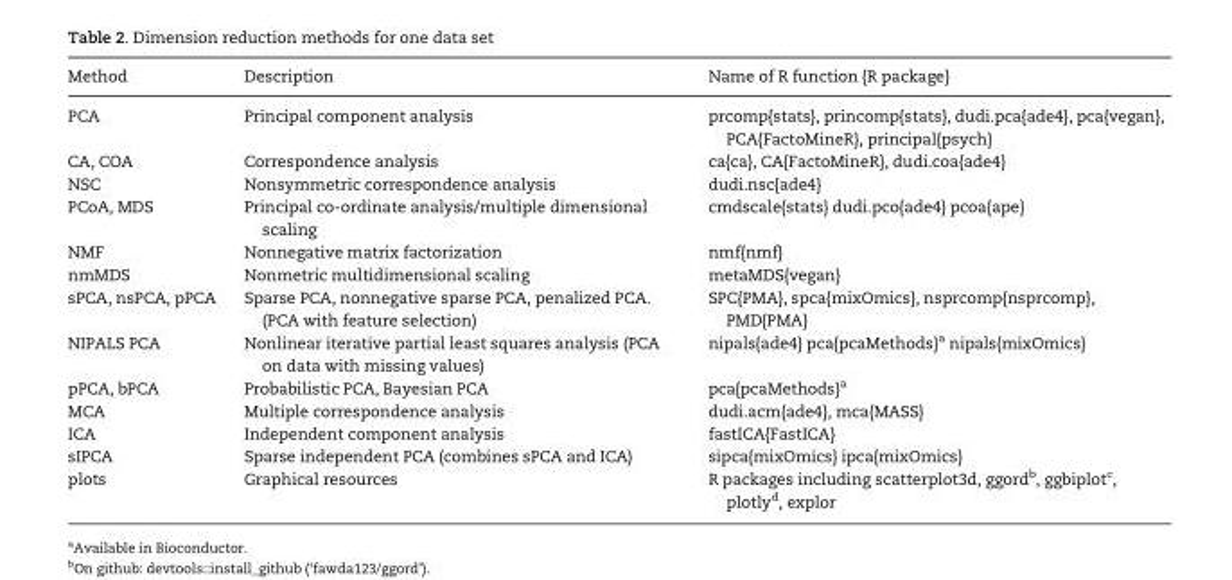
<table><thead><tr><td>Method</td><td>Description</td><td>Name of R function {R package}</td></tr></thead><tbody><tr><td>PCA</td><td>Principal component analysis</td><td>prcomp{stats}, princomp{stats}, dudi.pca{ade4}, pca{vegan}, PCA{FactoMineR}, principal{psych}</td></tr><tr><td>CA, COA</td><td>Correspondence analysis</td><td>ca{ca}, CA{FactoMineR}, dudi.coa{ade4}</td></tr><tr><td>NSC</td><td>Nonsymmetric correspondence analysis</td><td>dudi.nsc{ade4}</td></tr><tr><td>PCoA, MDS</td><td>Principal co-ordinate analysis/multiple dimensional scaling</td><td>cmdscale{stats} dudi.pco{ade4} pcoa{ape}</td></tr><tr><td>NMF</td><td>Nonnegative matrix factorization</td><td>nmf{nmf}</td></tr><tr><td>nmMDS</td><td>Nonmetric multidimensional scaling</td><td>metaMDS{vegan}</td></tr><tr><td>sPCA, nsPCA, pPCA</td><td>Sparse PCA, nonnegative sparse PCA, penalized PCA. (PCA with feature selection)</td><td>SPC{PMA}, spca{mixOmics}, nsprcomp{nsprcomp}, PMD{PMA}</td></tr><tr><td>NIPALS PCA</td><td>Nonlinear iterative partial least squares analysis (PCA on data with missing values)</td><td>nipals{ade4} pca{pcaMethods}<sup>a</sup> nipals{mixOmics}</td></tr><tr><td>pPCA, bPCA</td><td>Probabilistic PCA, Bayesian PCA</td><td>pca{pcaMethods}<sup>a</sup></td></tr><tr><td>MCA</td><td>Multiple correspondence analysis</td><td>dudi.acm{ade4}, mca{MASS}</td></tr><tr><td>ICA</td><td>Independent component analysis</td><td>fastICA{FastICA}</td></tr><tr><td>sIPCA</td><td>Sparse independent PCA (combines sPCA and ICA)</td><td>sipca{mixOmics} ipca{mixOmics}</td></tr><tr><td>plots</td><td>Graphical resources</td><td>R packages including scatterplot3d, ggord<sup>b</sup>, ggbiplot<sup>c</sup>, plotly<sup>d</sup>, explor</td></tr></tbody></table>